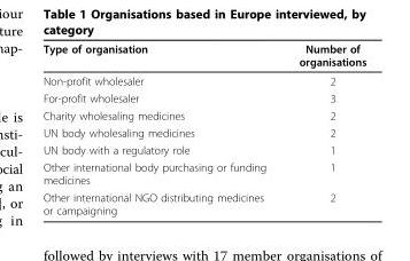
<table><thead><tr><td>Type of organisation</td><td>Number of organisations</td></tr></thead><tbody><tr><td>Non-profit wholesaler</td><td>2</td></tr><tr><td>For-profit wholesaler</td><td>3</td></tr><tr><td>Charity wholesaling medicines</td><td>2</td></tr><tr><td>UN body wholesaling medicines</td><td>2</td></tr><tr><td>UN body with a regulatory role</td><td>1</td></tr><tr><td>Other international body purchasing or funding medicines</td><td>1</td></tr><tr><td>Other international NGO distributing medicines or campaigning</td><td>2</td></tr></tbody></table>